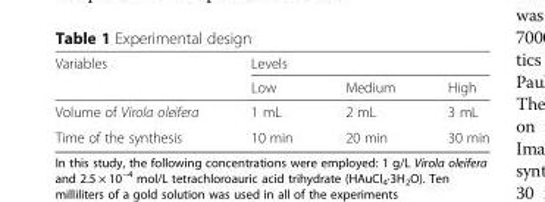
<table><thead><tr><td rowspan="2">Variables</td><td colspan="3">Levels</td></tr><tr><td>Low</td><td>Medium</td><td>High</td></tr></thead><tbody><tr><td>Volume of Virola oleifera</td><td>1 mL</td><td>2 mL</td><td>3 mL</td></tr><tr><td>Time of the synthesis</td><td>10 min</td><td>20 min</td><td>30 min</td></tr></tbody></table>